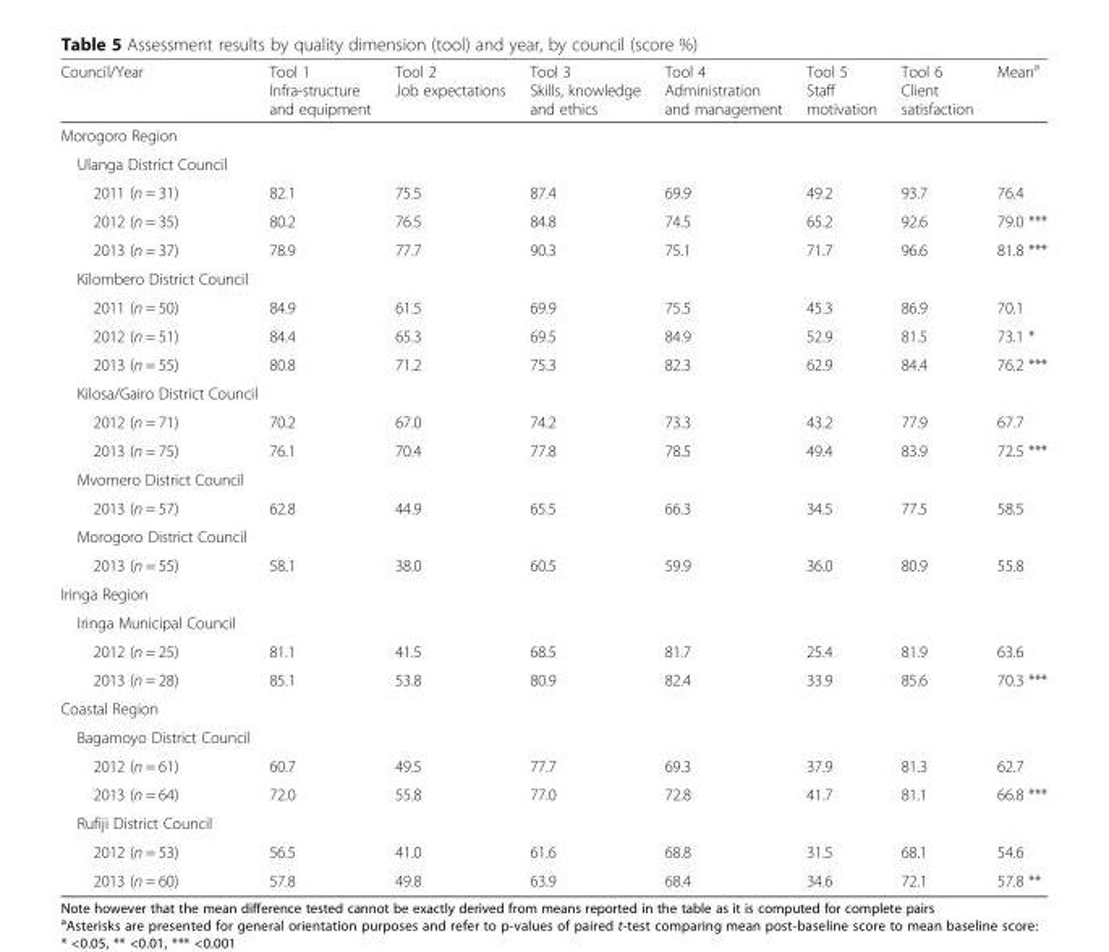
<table><thead><tr><td>Council/Year</td><td>Tool 1 Infra-structure and equipment</td><td>Tool 2 Job expectations</td><td>Tool 3 Skills, knowledge and ethics</td><td>Tool 4 Administration and management</td><td>Tool 5 Staff motivation</td><td>Tool 6 Client satisfaction</td><td>Mean<sup>a</sup></td></tr></thead><tbody><tr><td colspan="8">Morogoro Region</td></tr><tr><td colspan="8">Ulanga District Council</td></tr><tr><td>2011 (n = 31)</td><td>82.1</td><td>75.5</td><td>87.4</td><td>69.9</td><td>49.2</td><td>93.7</td><td>76.4</td></tr><tr><td>2012 (n = 35)</td><td>80.2</td><td>76.5</td><td>84.8</td><td>74.5</td><td>65.2</td><td>92.6</td><td>79.0 ***</td></tr><tr><td>2013 (n = 37)</td><td>78.9</td><td>77.7</td><td>90.3</td><td>75.1</td><td>71.7</td><td>96.6</td><td>81.8 ***</td></tr><tr><td colspan="8">Kilombero District Council</td></tr><tr><td>2011 (n = 50)</td><td>84.9</td><td>61.5</td><td>69.9</td><td>75.5</td><td>45.3</td><td>86.9</td><td>70.1</td></tr><tr><td>2012 (n = 51)</td><td>84.4</td><td>65.3</td><td>69.5</td><td>84.9</td><td>52.9</td><td>81.5</td><td>73.1 *</td></tr><tr><td>2013 (n = 55)</td><td>80.8</td><td>71.2</td><td>75.3</td><td>82.3</td><td>62.9</td><td>84.4</td><td>76.2 ***</td></tr><tr><td colspan="8">Kilosa/Gairo District Council</td></tr><tr><td>2012 (n = 71)</td><td>70.2</td><td>67.0</td><td>74.2</td><td>73.3</td><td>43.2</td><td>77.9</td><td>67.7</td></tr><tr><td>2013 (n = 75)</td><td>76.1</td><td>70.4</td><td>77.8</td><td>78.5</td><td>49.4</td><td>83.9</td><td>72.5 ***</td></tr><tr><td colspan="8">Mvomero District Council</td></tr><tr><td>2013 (n = 57)</td><td>62.8</td><td>44.9</td><td>65.5</td><td>66.3</td><td>34.5</td><td>77.5</td><td>58.5</td></tr><tr><td colspan="8">Morogoro District Council</td></tr><tr><td>2013 (n = 55)</td><td>58.1</td><td>38.0</td><td>60.5</td><td>59.9</td><td>36.0</td><td>80.9</td><td>55.8</td></tr><tr><td colspan="8">Iringa Region</td></tr><tr><td colspan="8">Iringa Municipal Council</td></tr><tr><td>2012 (n = 25)</td><td>81.1</td><td>41.5</td><td>68.5</td><td>81.7</td><td>25.4</td><td>81.9</td><td>63.6</td></tr><tr><td>2013 (n = 28)</td><td>85.1</td><td>53.8</td><td>80.9</td><td>82.4</td><td>33.9</td><td>85.6</td><td>70.3 ***</td></tr><tr><td colspan="8">Coastal Region</td></tr><tr><td colspan="8">Bagamoyo District Council</td></tr><tr><td>2012 (n = 61)</td><td>60.7</td><td>49.5</td><td>77.7</td><td>69.3</td><td>37.9</td><td>81.3</td><td>62.7</td></tr><tr><td>2013 (n = 64)</td><td>72.0</td><td>55.8</td><td>77.0</td><td>72.8</td><td>41.7</td><td>81.1</td><td>66.8 ***</td></tr><tr><td colspan="8">Rufiji District Council</td></tr><tr><td>2012 (n = 53)</td><td>56.5</td><td>41.0</td><td>61.6</td><td>68.8</td><td>31.5</td><td>68.1</td><td>54.6</td></tr><tr><td>2013 (n = 60)</td><td>57.8</td><td>49.8</td><td>63.9</td><td>68.4</td><td>34.6</td><td>72.1</td><td>57.8 **</td></tr></tbody></table>